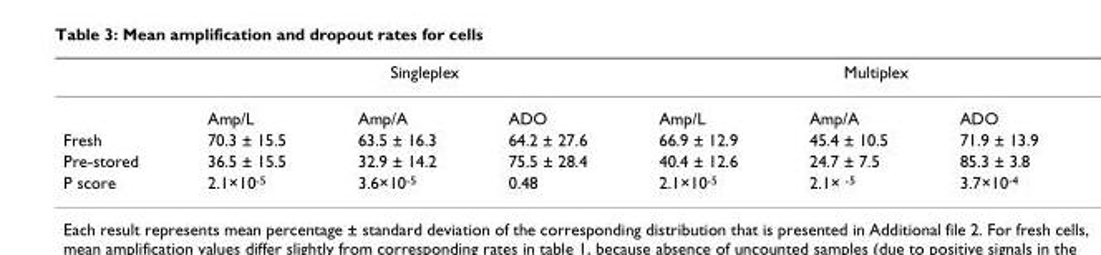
<table><thead><tr><td rowspan="2"></td><td colspan="3">Singleplex</td><td colspan="3">Multiplex</td></tr><tr><td>Amp/L</td><td>Amp/A</td><td>ADO</td><td>Amp/L</td><td>Amp/A</td><td>ADO</td></tr></thead><tbody><tr><td>Fresh</td><td>70.3 ± 15.5</td><td>63.5 ± 16.3</td><td>64.2 ± 27.6</td><td>66.9 ± 12.9</td><td>45.4 ± 10.5</td><td>71.9 ± 13.9</td></tr><tr><td>Pre-stored</td><td>36.5 ± 15.5</td><td>32.9 ± 14.2</td><td>75.5 ± 28.4</td><td>40.4 ± 12.6</td><td>24.7 ± 7.5</td><td>85.3 ± 3.8</td></tr><tr><td>P score</td><td>2.1×10<sup>-5</sup></td><td>3.6×10<sup>-5</sup></td><td>0.48</td><td>2.1×10<sup>-5</sup></td><td>2.1× <sup>-5</sup></td><td>3.7×10<sup>-4</sup></td></tr></tbody></table>